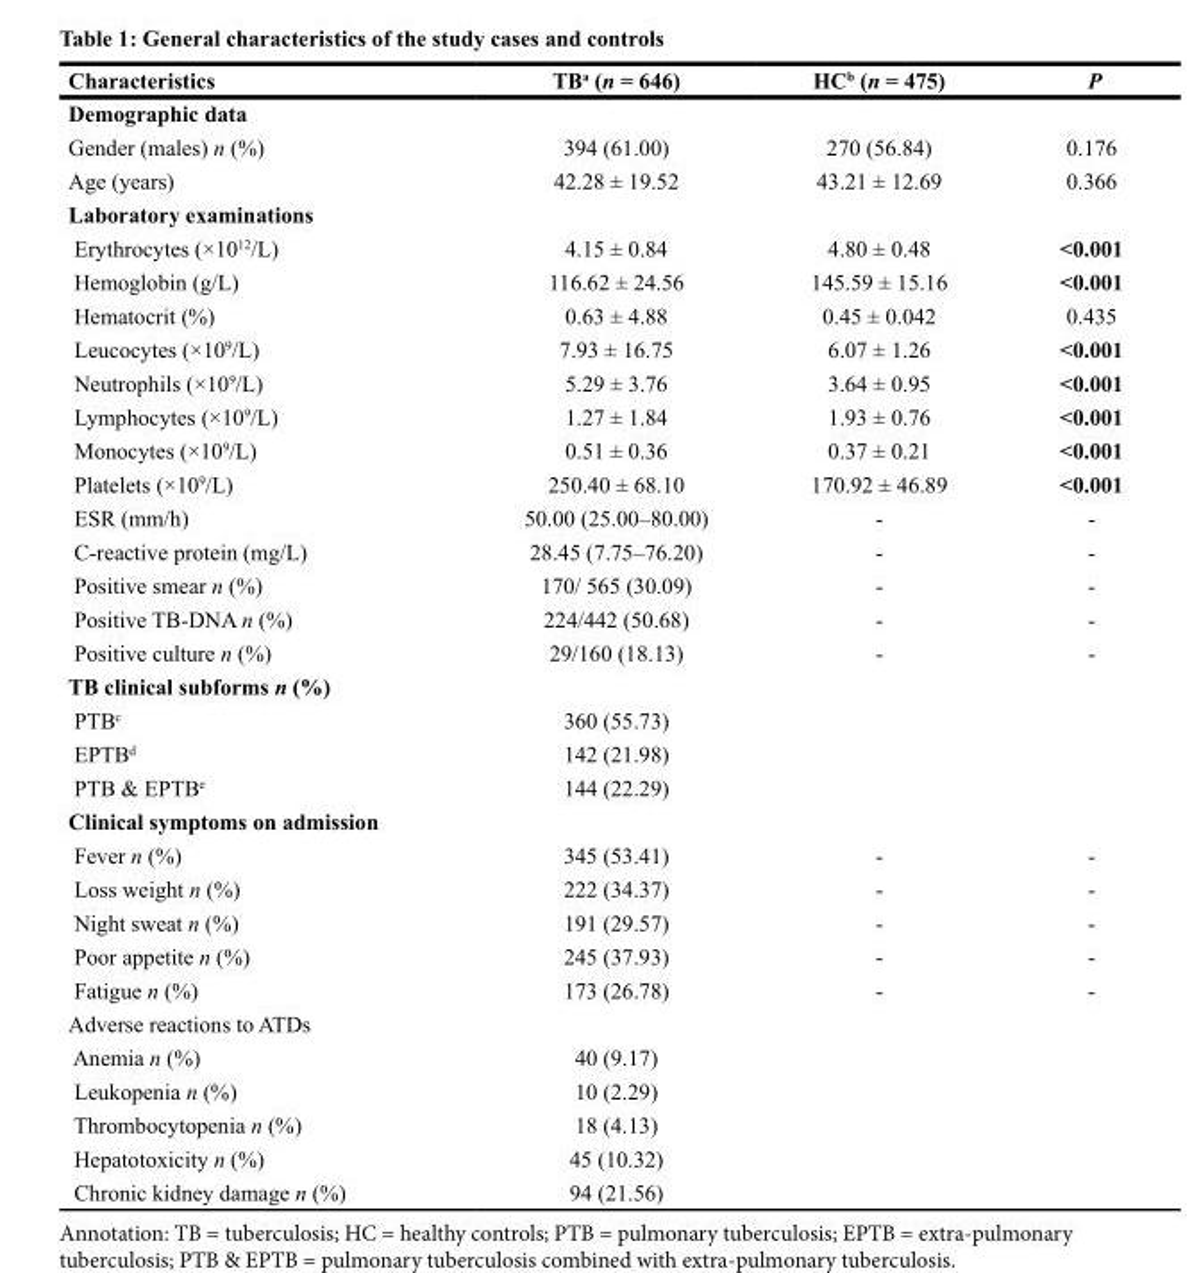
<table><thead><tr><td>Characteristics</td><td>TB<sup>a</sup> (n = 646)</td><td>HC<sup>b</sup> (n = 475)</td><td>P</td></tr></thead><tbody><tr><td colspan="4">Demographic data</td></tr><tr><td>Gender (males) n (%)</td><td>394 (61.00)</td><td>270 (56.84)</td><td>0.176</td></tr><tr><td>Age (years)</td><td>42.28 ± 19.52</td><td>43.21 ± 12.69</td><td>0.366</td></tr><tr><td colspan="4">Laboratory examinations</td></tr><tr><td>Erythrocytes (×10<sup>12</sup>/L)</td><td>4.15 ± 0.84</td><td>4.80 ± 0.48</td><td>&lt;0.001</td></tr><tr><td>Hemoglobin (g/L)</td><td>116.62 ± 24.56</td><td>145.59 ± 15.16</td><td>&lt;0.001</td></tr><tr><td>Hematocrit (%)</td><td>0.63 ± 4.88</td><td>0.45 ± 0.042</td><td>0.435</td></tr><tr><td>Leucocytes (×10<sup>9</sup>/L)</td><td>7.93 ± 16.75</td><td>6.07 ± 1.26</td><td>&lt;0.001</td></tr><tr><td>Neutrophils (×10<sup>9</sup>/L)</td><td>5.29 ± 3.76</td><td>3.64 ± 0.95</td><td>&lt;0.001</td></tr><tr><td>Lymphocytes (×10<sup>9</sup>/L)</td><td>1.27 ± 1.84</td><td>1.93 ± 0.76</td><td>&lt;0.001</td></tr><tr><td>Monocytes (×10<sup>9</sup>/L)</td><td>0.51 ± 0.36</td><td>0.37 ± 0.21</td><td>&lt;0.001</td></tr><tr><td>Platelets (×10<sup>9</sup>/L)</td><td>250.40 ± 68.10</td><td>170.92 ± 46.89</td><td>&lt;0.001</td></tr><tr><td>ESR (mm/h)</td><td>50.00 (25.00–80.00)</td><td>-</td><td>-</td></tr><tr><td>C-reactive protein (mg/L)</td><td>28.45 (7.75–76.20)</td><td>-</td><td>-</td></tr><tr><td>Positive smear n (%)</td><td>170/ 565 (30.09)</td><td>-</td><td>-</td></tr><tr><td>Positive TB-DNA n (%)</td><td>224/442 (50.68)</td><td>-</td><td>-</td></tr><tr><td>Positive culture n (%)</td><td>29/160 (18.13)</td><td>-</td><td>-</td></tr><tr><td colspan="4">TB clinical subforms n (%)</td></tr><tr><td>PTB<sup>c</sup></td><td>360 (55.73)</td><td></td><td></td></tr><tr><td>EPTB<sup>d</sup></td><td>142 (21.98)</td><td></td><td></td></tr><tr><td>PTB &amp; EPTB<sup>e</sup></td><td>144 (22.29)</td><td></td><td></td></tr><tr><td colspan="4">Clinical symptoms on admission</td></tr><tr><td>Fever n (%)</td><td>345 (53.41)</td><td>-</td><td>-</td></tr><tr><td>Loss weight n (%)</td><td>222 (34.37)</td><td>-</td><td>-</td></tr><tr><td>Night sweat n (%)</td><td>191 (29.57)</td><td>-</td><td>-</td></tr><tr><td>Poor appetite n (%)</td><td>245 (37.93)</td><td>-</td><td>-</td></tr><tr><td>Fatigue n (%)</td><td>173 (26.78)</td><td>-</td><td>-</td></tr><tr><td colspan="4">Adverse reactions to ATDs</td></tr><tr><td>Anemia n (%)</td><td>40 (9.17)</td><td></td><td></td></tr><tr><td>Leukopenia n (%)</td><td>10 (2.29)</td><td></td><td></td></tr><tr><td>Thrombocytopenia n (%)</td><td>18 (4.13)</td><td></td><td></td></tr><tr><td>Hepatotoxicity n (%)</td><td>45 (10.32)</td><td></td><td></td></tr><tr><td>Chronic kidney damage n (%)</td><td>94 (21.56)</td><td></td><td></td></tr></tbody></table>